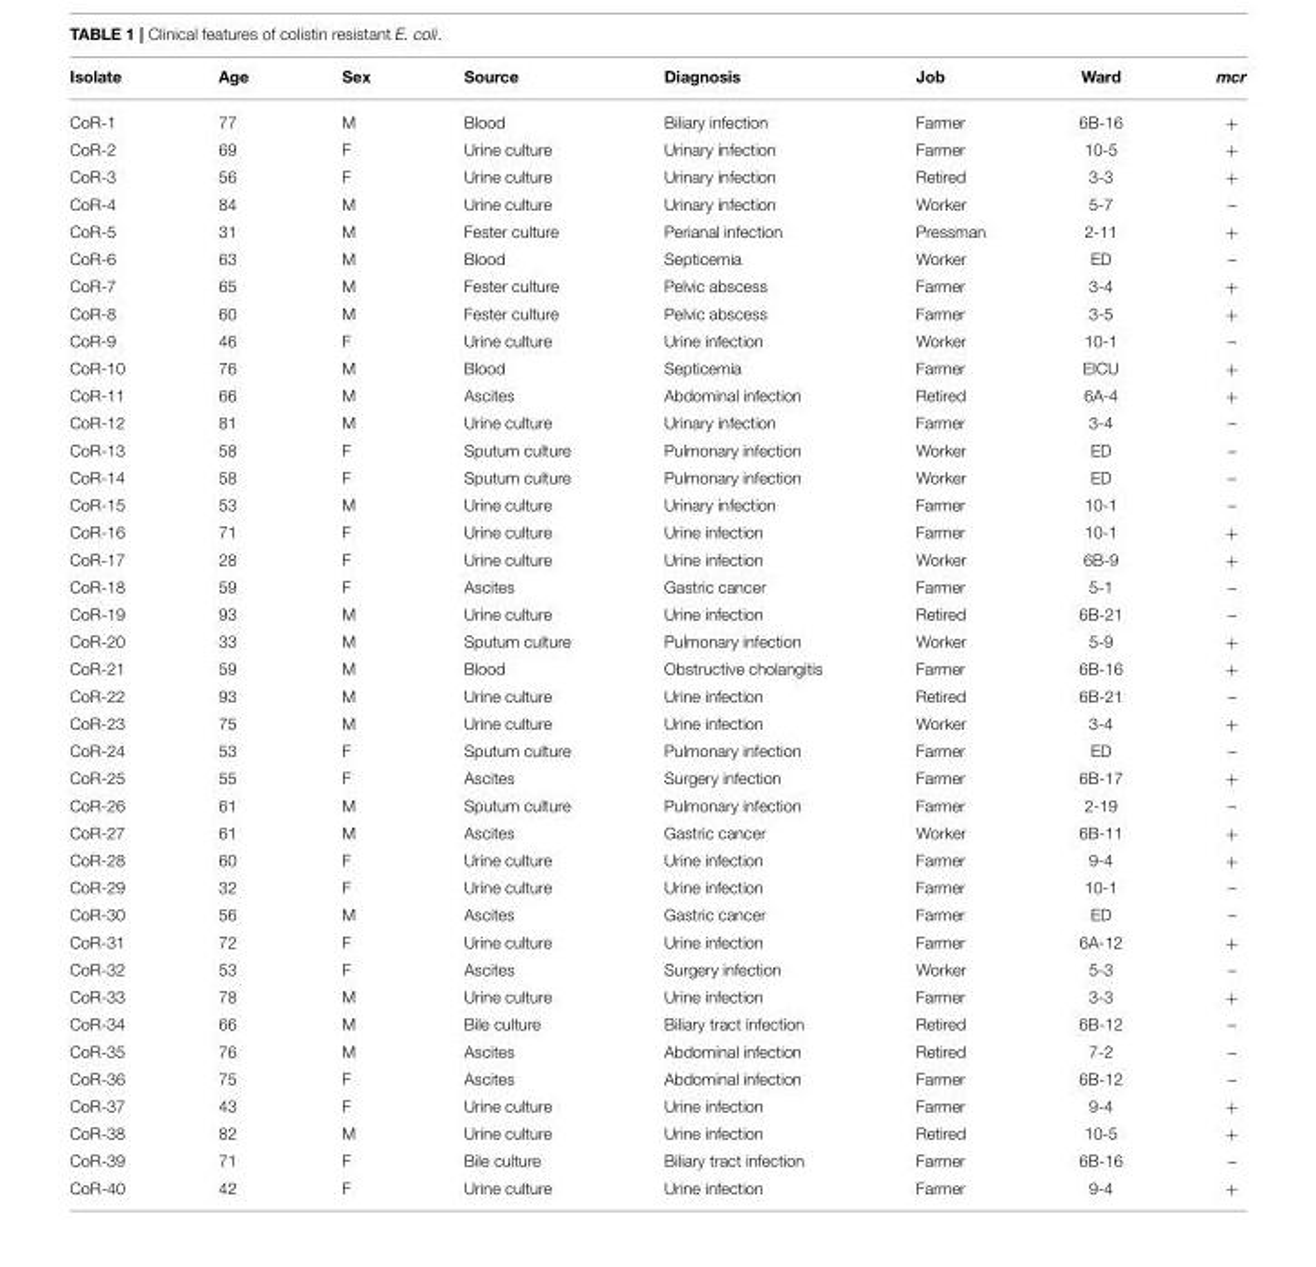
<table><thead><tr><td>Isolate</td><td>Age</td><td>Sex</td><td>Source</td><td>Diagnosis</td><td>Job</td><td>Ward</td><td>mcr</td></tr></thead><tbody><tr><td>CoR-1</td><td>77</td><td>M</td><td>Blood</td><td>Biliary infection</td><td>Farmer</td><td>6B-16</td><td>+</td></tr><tr><td>CoR-2</td><td>69</td><td>F</td><td>Urine culture</td><td>Urinary infection</td><td>Farmer</td><td>10-5</td><td>+</td></tr><tr><td>CoR-3</td><td>56</td><td>F</td><td>Urine culture</td><td>Urinary infection</td><td>Retired</td><td>3-3</td><td>+</td></tr><tr><td>CoR-4</td><td>84</td><td>M</td><td>Urine culture</td><td>Urinary infection</td><td>Worker</td><td>5-7</td><td>–</td></tr><tr><td>CoR-5</td><td>31</td><td>M</td><td>Fester culture</td><td>Perianal infection</td><td>Pressman</td><td>2-11</td><td>+</td></tr><tr><td>CoR-6</td><td>63</td><td>M</td><td>Blood</td><td>Septicemia</td><td>Worker</td><td>ED</td><td>–</td></tr><tr><td>CoR-7</td><td>65</td><td>M</td><td>Fester culture</td><td>Pelvic abscess</td><td>Farmer</td><td>3-4</td><td>+</td></tr><tr><td>CoR-8</td><td>60</td><td>M</td><td>Fester culture</td><td>Pelvic abscess</td><td>Farmer</td><td>3-5</td><td>+</td></tr><tr><td>CoR-9</td><td>46</td><td>F</td><td>Urine culture</td><td>Urine infection</td><td>Worker</td><td>10-1</td><td>–</td></tr><tr><td>CoR-10</td><td>76</td><td>M</td><td>Blood</td><td>Septicemia</td><td>Farmer</td><td>EICU</td><td>+</td></tr><tr><td>CoR-11</td><td>66</td><td>M</td><td>Ascites</td><td>Abdominal infection</td><td>Retired</td><td>6A-4</td><td>+</td></tr><tr><td>CoR-12</td><td>81</td><td>M</td><td>Urine culture</td><td>Urinary infection</td><td>Farmer</td><td>3-4</td><td>–</td></tr><tr><td>CoR-13</td><td>58</td><td>F</td><td>Sputum culture</td><td>Pulmonary infection</td><td>Worker</td><td>ED</td><td>–</td></tr><tr><td>CoR-14</td><td>58</td><td>F</td><td>Sputum culture</td><td>Pulmonary infection</td><td>Worker</td><td>ED</td><td>–</td></tr><tr><td>CoR-15</td><td>53</td><td>M</td><td>Urine culture</td><td>Urinary infection</td><td>Farmer</td><td>10-1</td><td>–</td></tr><tr><td>CoR-16</td><td>71</td><td>F</td><td>Urine culture</td><td>Urine infection</td><td>Farmer</td><td>10-1</td><td>+</td></tr><tr><td>CoR-17</td><td>28</td><td>F</td><td>Urine culture</td><td>Urine infection</td><td>Worker</td><td>6B-9</td><td>+</td></tr><tr><td>CoR-18</td><td>59</td><td>F</td><td>Ascites</td><td>Gastric cancer</td><td>Farmer</td><td>5-1</td><td>–</td></tr><tr><td>CoR-19</td><td>93</td><td>M</td><td>Urine culture</td><td>Urine infection</td><td>Retired</td><td>6B-21</td><td>–</td></tr><tr><td>CoR-20</td><td>33</td><td>M</td><td>Sputum culture</td><td>Pulmonary infection</td><td>Worker</td><td>5-9</td><td>+</td></tr><tr><td>CoR-21</td><td>59</td><td>M</td><td>Blood</td><td>Obstructive cholangitis</td><td>Farmer</td><td>6B-16</td><td>+</td></tr><tr><td>CoR-22</td><td>93</td><td>M</td><td>Urine culture</td><td>Urine infection</td><td>Retired</td><td>6B-21</td><td>–</td></tr><tr><td>CoR-23</td><td>75</td><td>M</td><td>Urine culture</td><td>Urine infection</td><td>Worker</td><td>3-4</td><td>+</td></tr><tr><td>CoR-24</td><td>53</td><td>F</td><td>Sputum culture</td><td>Pulmonary infection</td><td>Farmer</td><td>ED</td><td>–</td></tr><tr><td>CoR-25</td><td>55</td><td>F</td><td>Ascites</td><td>Surgery infection</td><td>Farmer</td><td>6B-17</td><td>+</td></tr><tr><td>CoR-26</td><td>61</td><td>M</td><td>Sputum culture</td><td>Pulmonary infection</td><td>Farmer</td><td>2-19</td><td>–</td></tr><tr><td>CoR-27</td><td>61</td><td>M</td><td>Ascites</td><td>Gastric cancer</td><td>Worker</td><td>6B-11</td><td>+</td></tr><tr><td>CoR-28</td><td>60</td><td>F</td><td>Urine culture</td><td>Urine infection</td><td>Farmer</td><td>9-4</td><td>+</td></tr><tr><td>CoR-29</td><td>32</td><td>F</td><td>Urine culture</td><td>Urine infection</td><td>Farmer</td><td>10-1</td><td>–</td></tr><tr><td>CoR-30</td><td>56</td><td>M</td><td>Ascites</td><td>Gastric cancer</td><td>Farmer</td><td>ED</td><td>–</td></tr><tr><td>CoR-31</td><td>72</td><td>F</td><td>Urine culture</td><td>Urine infection</td><td>Farmer</td><td>6A-12</td><td>+</td></tr><tr><td>CoR-32</td><td>53</td><td>F</td><td>Ascites</td><td>Surgery infection</td><td>Worker</td><td>5-3</td><td>–</td></tr><tr><td>CoR-33</td><td>78</td><td>M</td><td>Urine culture</td><td>Urine infection</td><td>Farmer</td><td>3-3</td><td>+</td></tr><tr><td>CoR-34</td><td>66</td><td>M</td><td>Bile culture</td><td>Biliary tract infection</td><td>Retired</td><td>6B-12</td><td>–</td></tr><tr><td>CoR-35</td><td>76</td><td>M</td><td>Ascites</td><td>Abdominal infection</td><td>Retired</td><td>7-2</td><td>–</td></tr><tr><td>CoR-36</td><td>75</td><td>F</td><td>Ascites</td><td>Abdominal infection</td><td>Farmer</td><td>6B-12</td><td>–</td></tr><tr><td>CoR-37</td><td>43</td><td>F</td><td>Urine culture</td><td>Urine infection</td><td>Farmer</td><td>9-4</td><td>+</td></tr><tr><td>CoR-38</td><td>82</td><td>M</td><td>Urine culture</td><td>Urine infection</td><td>Retired</td><td>10-5</td><td>+</td></tr><tr><td>CoR-39</td><td>71</td><td>F</td><td>Bile culture</td><td>Biliary tract infection</td><td>Farmer</td><td>6B-16</td><td>–</td></tr><tr><td>CoR-40</td><td>42</td><td>F</td><td>Urine culture</td><td>Urine infection</td><td>Farmer</td><td>9-4</td><td>+</td></tr></tbody></table>